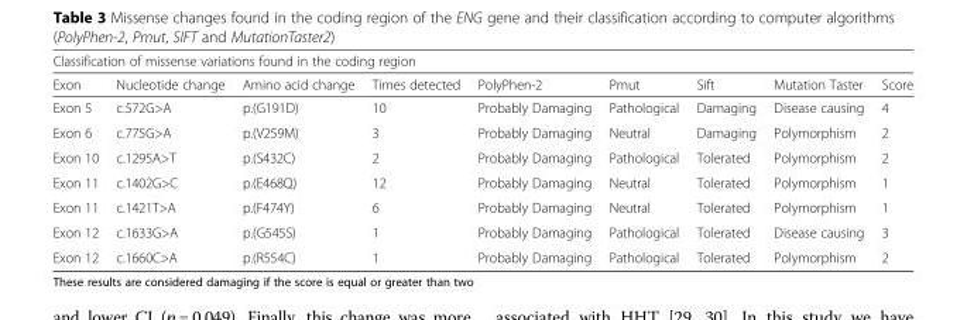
<table><thead><tr><td colspan="9">Classification of missense variations found in the coding region</td></tr><tr><td>Exon</td><td>Nucleotide change</td><td>Amino acid change</td><td>Times detected</td><td>PolyPhen-2</td><td>Pmut</td><td>Sift</td><td>Mutation Taster</td><td>Score</td></tr></thead><tbody><tr><td>Exon 5</td><td>c.572G&gt;A</td><td>p.(G191D)</td><td>10</td><td>Probably Damaging</td><td>Pathological</td><td>Damaging</td><td>Disease causing</td><td>4</td></tr><tr><td>Exon 6</td><td>c.775G&gt;A</td><td>p.(V259M)</td><td>3</td><td>Probably Damaging</td><td>Neutral</td><td>Damaging</td><td>Polymorphism</td><td>2</td></tr><tr><td>Exon 10</td><td>c.1295A&gt;T</td><td>p.(S432C)</td><td>2</td><td>Probably Damaging</td><td>Pathological</td><td>Tolerated</td><td>Polymorphism</td><td>2</td></tr><tr><td>Exon 11</td><td>c.1402G&gt;C</td><td>p.(E468Q)</td><td>12</td><td>Probably Damaging</td><td>Neutral</td><td>Tolerated</td><td>Polymorphism</td><td>1</td></tr><tr><td>Exon 11</td><td>c.1421T&gt;A</td><td>p.(F474Y)</td><td>6</td><td>Probably Damaging</td><td>Neutral</td><td>Tolerated</td><td>Polymorphism</td><td>1</td></tr><tr><td>Exon 12</td><td>c.1633G&gt;A</td><td>p.(G545S)</td><td>1</td><td>Probably Damaging</td><td>Pathological</td><td>Tolerated</td><td>Disease causing</td><td>3</td></tr><tr><td>Exon 12</td><td>c.1660C&gt;A</td><td>p.(R554C)</td><td>1</td><td>Probably Damaging</td><td>Pathological</td><td>Tolerated</td><td>Polymorphism</td><td>2</td></tr></tbody></table>